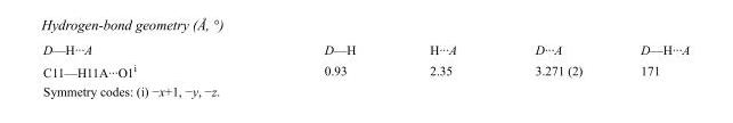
<table><tbody><tr><td>D—H···A</td><td>D—H</td><td>H···A</td><td>D···A</td><td>D—H···A</td></tr><tr><td>C11—H11A···O1<sup>i</sup></td><td>0.93</td><td>2.35</td><td>3.271 (2)</td><td>171</td></tr></tbody></table>